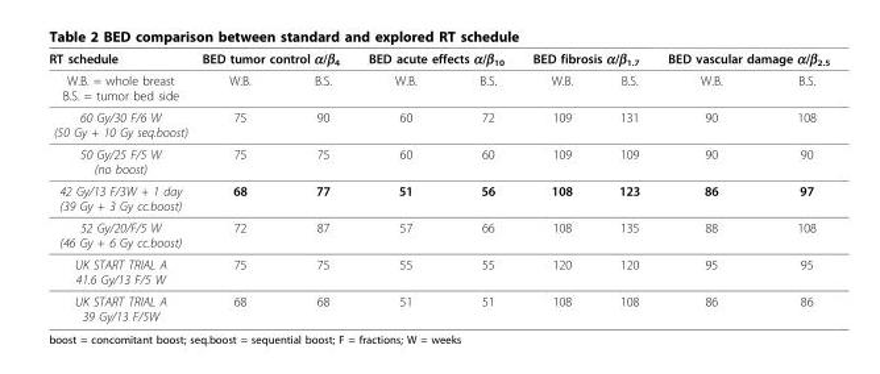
<table><thead><tr><td rowspan="2">RT schedule W.B. = whole breast B.S. = tumor bed side</td><td colspan="2">BED tumor control α/β<sub>4</sub></td><td colspan="2">BED acute effects α/β<sub>10</sub></td><td colspan="2">BED fibrosis α/β<sub>1.7</sub></td><td colspan="2">BED vascular damage α/β<sub>2.5</sub></td></tr><tr><td>W.B.</td><td>B.S.</td><td>W.B.</td><td>B.S.</td><td>W.B.</td><td>B.S.</td><td>W.B.</td><td>B.S.</td></tr></thead><tbody><tr><td>60 Gy/30 F/6 W (50 Gy + 10 Gy seq.boost)</td><td>75</td><td>90</td><td>60</td><td>72</td><td>109</td><td>131</td><td>90</td><td>108</td></tr><tr><td>50 Gy/25 F/5 W (no boost)</td><td>75</td><td>75</td><td>60</td><td>60</td><td>109</td><td>109</td><td>90</td><td>90</td></tr><tr><td>42 Gy/13 F/3W + 1 day (39 Gy + 3 Gy cc.boost)</td><td>68</td><td>77</td><td>51</td><td>56</td><td>108</td><td>123</td><td>86</td><td>97</td></tr><tr><td>52 Gy/20/F/5 W (46 Gy + 6 Gy cc.boost)</td><td>72</td><td>87</td><td>57</td><td>66</td><td>108</td><td>135</td><td>88</td><td>108</td></tr><tr><td>UK START TRIAL A 41.6 Gy/13 F/5 W</td><td>75</td><td>75</td><td>55</td><td>55</td><td>120</td><td>120</td><td>95</td><td>95</td></tr><tr><td>UK START TRIAL A 39 Gy/13 F/5W</td><td>68</td><td>68</td><td>51</td><td>51</td><td>108</td><td>108</td><td>86</td><td>86</td></tr></tbody></table>